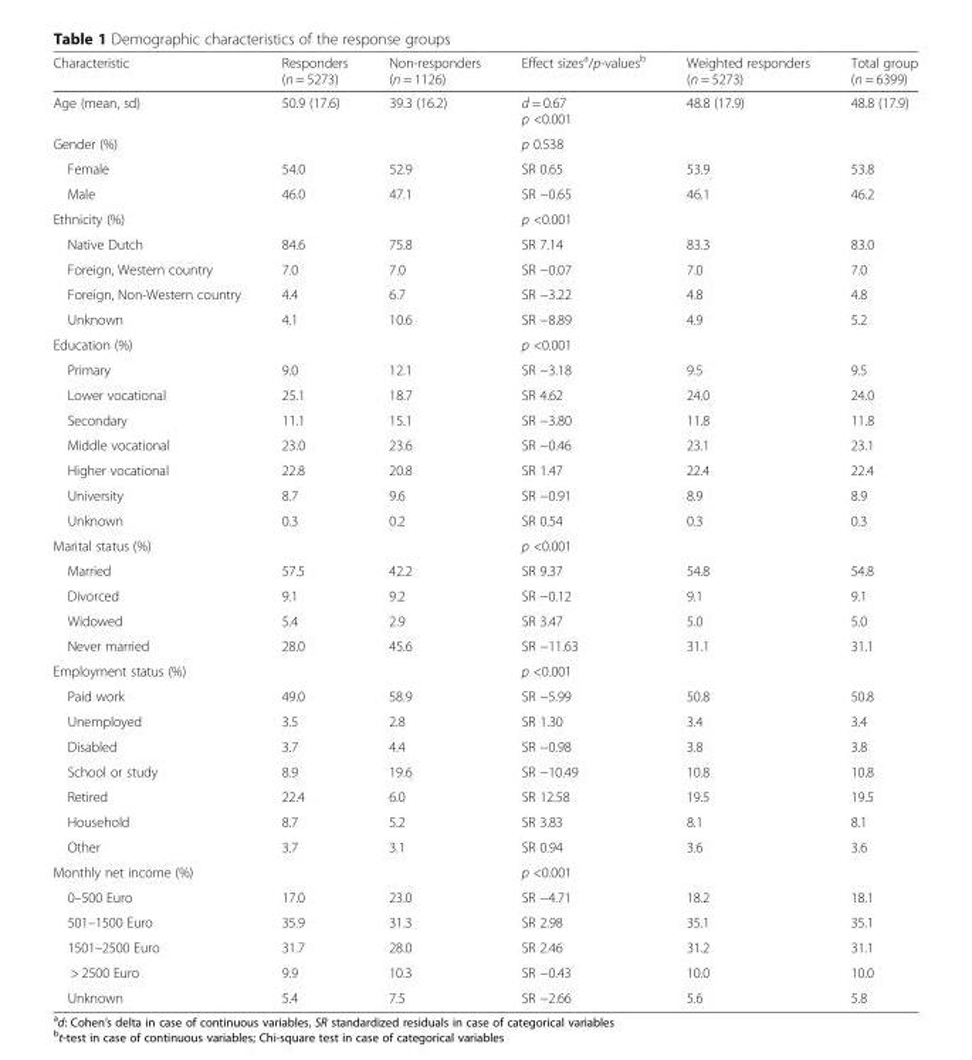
<table><thead><tr><td>Characteristic</td><td>Responders (n = 5273)</td><td>Non-responders (n = 1126)</td><td>Effect sizes<sup>a</sup>/p-values<sup>b</sup></td><td>Weighted responders (n = 5273)</td><td>Total group (n = 6399)</td></tr></thead><tbody><tr><td>Age (mean, sd)</td><td>50.9 (17.6)</td><td>39.3 (16.2)</td><td>d = 0.67 p &lt;0.001</td><td>48.8 (17.9)</td><td>48.8 (17.9)</td></tr><tr><td>Gender (%)</td><td></td><td></td><td>p 0.538</td><td></td><td></td></tr><tr><td>Female</td><td>54.0</td><td>52.9</td><td>SR 0.65</td><td>53.9</td><td>53.8</td></tr><tr><td>Male</td><td>46.0</td><td>47.1</td><td>SR −0.65</td><td>46.1</td><td>46.2</td></tr><tr><td>Ethnicity (%)</td><td></td><td></td><td>p &lt;0.001</td><td></td><td></td></tr><tr><td>Native Dutch</td><td>84.6</td><td>75.8</td><td>SR 7.14</td><td>83.3</td><td>83.0</td></tr><tr><td>Foreign, Western country</td><td>7.0</td><td>7.0</td><td>SR −0.07</td><td>7.0</td><td>7.0</td></tr><tr><td>Foreign, Non-Western country</td><td>4.4</td><td>6.7</td><td>SR −3.22</td><td>4.8</td><td>4.8</td></tr><tr><td>Unknown</td><td>4.1</td><td>10.6</td><td>SR −8.89</td><td>4.9</td><td>5.2</td></tr><tr><td>Education (%)</td><td></td><td></td><td>p &lt;0.001</td><td></td><td></td></tr><tr><td>Primary</td><td>9.0</td><td>12.1</td><td>SR −3.18</td><td>9.5</td><td>9.5</td></tr><tr><td>Lower vocational</td><td>25.1</td><td>18.7</td><td>SR 4.62</td><td>24.0</td><td>24.0</td></tr><tr><td>Secondary</td><td>11.1</td><td>15.1</td><td>SR −3.80</td><td>11.8</td><td>11.8</td></tr><tr><td>Middle vocational</td><td>23.0</td><td>23.6</td><td>SR −0.46</td><td>23.1</td><td>23.1</td></tr><tr><td>Higher vocational</td><td>22.8</td><td>20.8</td><td>SR 1.47</td><td>22.4</td><td>22.4</td></tr><tr><td>University</td><td>8.7</td><td>9.6</td><td>SR −0.91</td><td>8.9</td><td>8.9</td></tr><tr><td>Unknown</td><td>0.3</td><td>0.2</td><td>SR 0.54</td><td>0.3</td><td>0.3</td></tr><tr><td>Marital status (%)</td><td></td><td></td><td>p &lt;0.001</td><td></td><td></td></tr><tr><td>Married</td><td>57.5</td><td>42.2</td><td>SR 9.37</td><td>54.8</td><td>54.8</td></tr><tr><td>Divorced</td><td>9.1</td><td>9.2</td><td>SR −0.12</td><td>9.1</td><td>9.1</td></tr><tr><td>Widowed</td><td>5.4</td><td>2.9</td><td>SR 3.47</td><td>5.0</td><td>5.0</td></tr><tr><td>Never married</td><td>28.0</td><td>45.6</td><td>SR −11.63</td><td>31.1</td><td>31.1</td></tr><tr><td>Employment status (%)</td><td></td><td></td><td>p &lt;0.001</td><td></td><td></td></tr><tr><td>Paid work</td><td>49.0</td><td>58.9</td><td>SR −5.99</td><td>50.8</td><td>50.8</td></tr><tr><td>Unemployed</td><td>3.5</td><td>2.8</td><td>SR 1.30</td><td>3.4</td><td>3.4</td></tr><tr><td>Disabled</td><td>3.7</td><td>4.4</td><td>SR −0.98</td><td>3.8</td><td>3.8</td></tr><tr><td>School or study</td><td>8.9</td><td>19.6</td><td>SR −10.49</td><td>10.8</td><td>10.8</td></tr><tr><td>Retired</td><td>22.4</td><td>6.0</td><td>SR 12.58</td><td>19.5</td><td>19.5</td></tr><tr><td>Household</td><td>8.7</td><td>5.2</td><td>SR 3.83</td><td>8.1</td><td>8.1</td></tr><tr><td>Other</td><td>3.7</td><td>3.1</td><td>SR 0.94</td><td>3.6</td><td>3.6</td></tr><tr><td>Monthly net income (%)</td><td></td><td></td><td>p &lt;0.001</td><td></td><td></td></tr><tr><td>0–500 Euro</td><td>17.0</td><td>23.0</td><td>SR −4.71</td><td>18.2</td><td>18.1</td></tr><tr><td>501–1500 Euro</td><td>35.9</td><td>31.3</td><td>SR 2.98</td><td>35.1</td><td>35.1</td></tr><tr><td>1501–2500 Euro</td><td>31.7</td><td>28.0</td><td>SR 2.46</td><td>31.2</td><td>31.1</td></tr><tr><td>&gt; 2500 Euro</td><td>9.9</td><td>10.3</td><td>SR −0.43</td><td>10.0</td><td>10.0</td></tr><tr><td>Unknown</td><td>5.4</td><td>7.5</td><td>SR −2.66</td><td>5.6</td><td>5.8</td></tr></tbody></table>